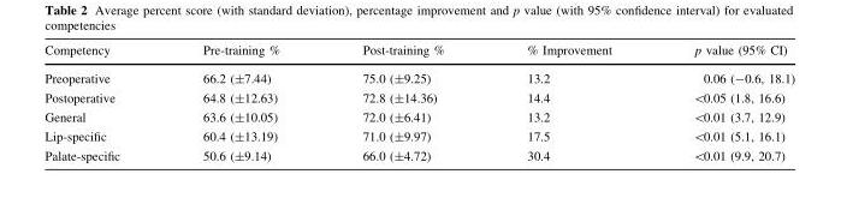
<table><thead><tr><td>Competency</td><td>Pre-training %</td><td>Post-training %</td><td>% Improvement</td><td>p value (95% CI)</td></tr></thead><tbody><tr><td>Preoperative</td><td>66.2 (±7.44)</td><td>75.0 (±9.25)</td><td>13.2</td><td>0.06 (-0.6, 18.1)</td></tr><tr><td>Postoperative</td><td>64.8 (±12.63)</td><td>72.8 (±14.36)</td><td>14.4</td><td>&lt;0.05 (1.8, 16.6)</td></tr><tr><td>General</td><td>63.6 (±10.05)</td><td>72.0 (±6.41)</td><td>13.2</td><td>&lt;0.01 (3.7, 12.9)</td></tr><tr><td>Lip-specific</td><td>60.4 (±13.19)</td><td>71.0 (±9.97)</td><td>17.5</td><td>&lt;0.01 (5.1, 16.1)</td></tr><tr><td>Palate-specific</td><td>50.6 (±9.14)</td><td>66.0 (±4.72)</td><td>30.4</td><td>&lt;0.01 (9.9, 20.7)</td></tr></tbody></table>